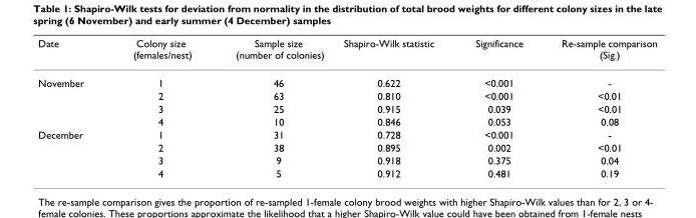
<table><thead><tr><td>Date</td><td>Colony size (females/nest)</td><td>Sample size (number of colonies)</td><td>Shapiro-Wilk statistic</td><td>Significance</td><td>Re-sample comparison (Sig.)</td></tr></thead><tbody><tr><td rowspan="4">November</td><td>1</td><td>46</td><td>0.622</td><td>&lt;0.001</td><td>-</td></tr><tr><td>2</td><td>63</td><td>0.810</td><td>&lt;0.001</td><td>&lt;0.01</td></tr><tr><td>3</td><td>25</td><td>0.915</td><td>0.039</td><td>&lt;0.01</td></tr><tr><td>4</td><td>10</td><td>0.846</td><td>0.053</td><td>0.08</td></tr><tr><td rowspan="4">December</td><td>1</td><td>31</td><td>0.728</td><td>&lt;0.001</td><td>-</td></tr><tr><td>2</td><td>38</td><td>0.895</td><td>0.002</td><td>&lt;0.01</td></tr><tr><td>3</td><td>9</td><td>0.918</td><td>0.375</td><td>0.04</td></tr><tr><td>4</td><td>5</td><td>0.912</td><td>0.481</td><td>0.19</td></tr></tbody></table>